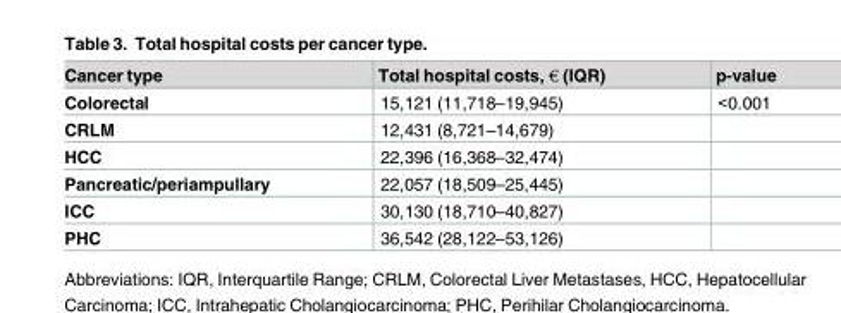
<table><thead><tr><td>Cancer type</td><td>Total hospital costs, € (IQR)</td><td>p-value</td></tr></thead><tbody><tr><td>Colorectal</td><td>15,121 (11,718–19,945)</td><td>&lt;0.001</td></tr><tr><td>CRLM</td><td>12,431 (8,721–14,679)</td><td></td></tr><tr><td>HCC</td><td>22,396 (16,368–32,474)</td><td></td></tr><tr><td>Pancreatic/periampullary</td><td>22,057 (18,509–25,445)</td><td></td></tr><tr><td>ICC</td><td>30,130 (18,710–40,827)</td><td></td></tr><tr><td>PHC</td><td>36,542 (28,122–53,126)</td><td></td></tr></tbody></table>